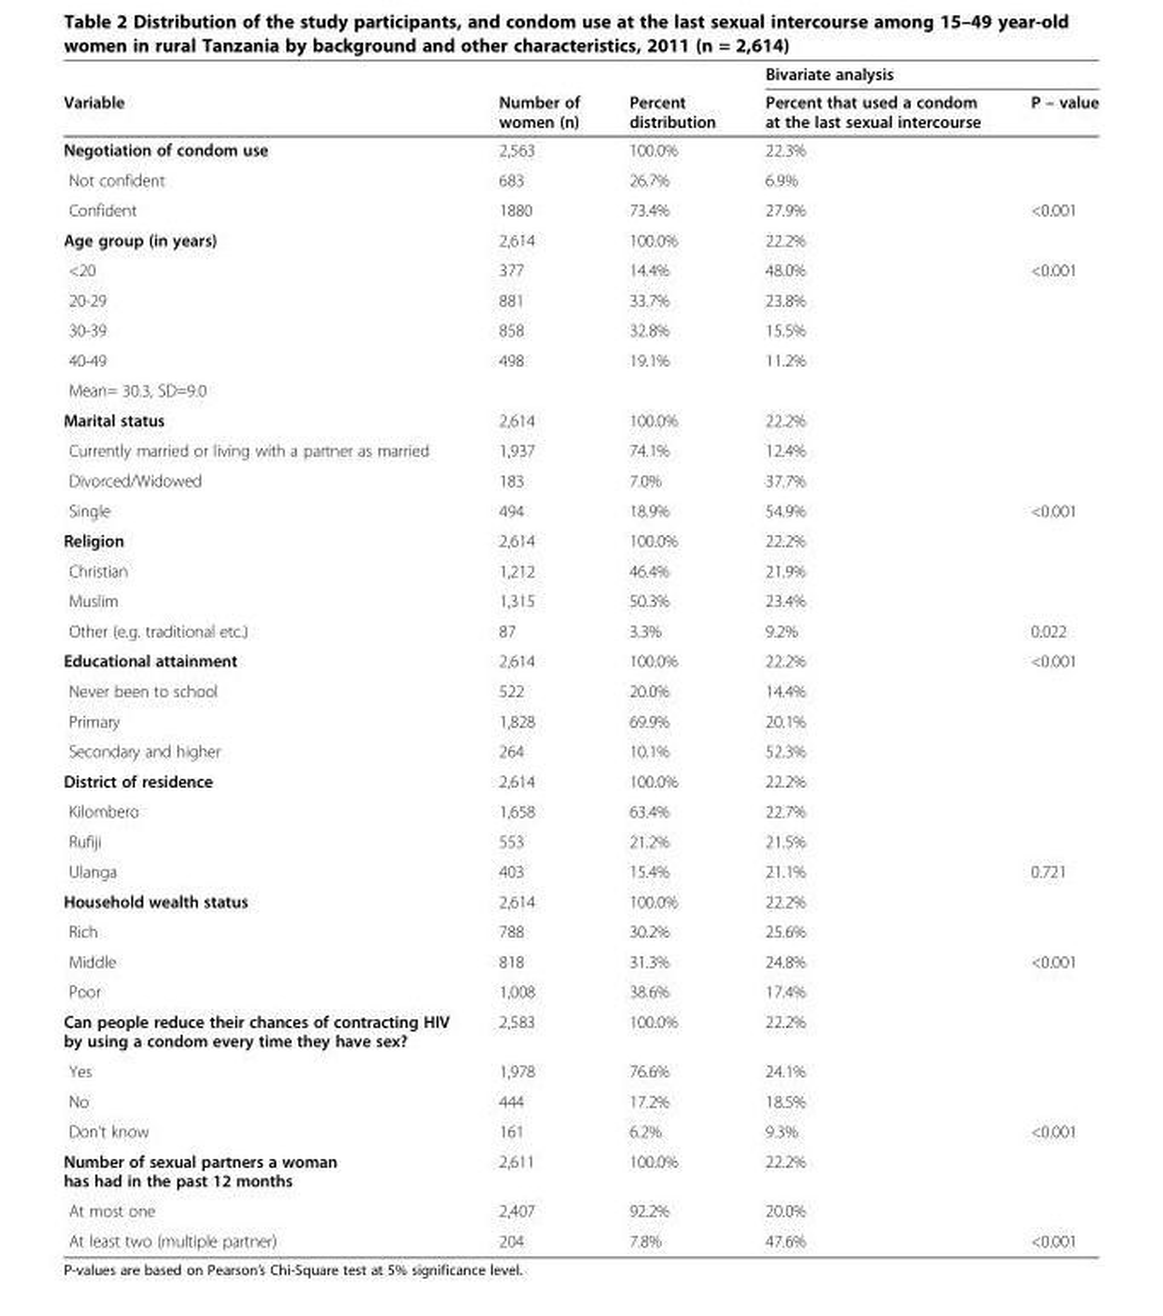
<table><thead><tr><td rowspan="2">Variable</td><td rowspan="2">Number of women (n)</td><td rowspan="2">Percent distribution</td><td colspan="2">Bivariate analysis</td></tr><tr><td>Percent that used a condom at the last sexual intercourse</td><td>P – value</td></tr></thead><tbody><tr><td>Negotiation of condom use</td><td>2,563</td><td>100.0%</td><td>22.3%</td><td></td></tr><tr><td>Not confident</td><td>683</td><td>26.7%</td><td>6.9%</td><td></td></tr><tr><td>Confident</td><td>1880</td><td>73.4%</td><td>27.9%</td><td>&lt;0.001</td></tr><tr><td>Age group (in years)</td><td>2,614</td><td>100.0%</td><td>22.2%</td><td></td></tr><tr><td>&lt;20</td><td>377</td><td>14.4%</td><td>48.0%</td><td>&lt;0.001</td></tr><tr><td>20-29</td><td>881</td><td>33.7%</td><td>23.8%</td><td></td></tr><tr><td>30-39</td><td>858</td><td>32.8%</td><td>15.5%</td><td></td></tr><tr><td>40-49</td><td>498</td><td>19.1%</td><td>11.2%</td><td></td></tr><tr><td colspan="5">Mean= 30.3, SD=9.0</td></tr><tr><td>Marital status</td><td>2,614</td><td>100.0%</td><td>22.2%</td><td></td></tr><tr><td>Currently married or living with a partner as married</td><td>1,937</td><td>74.1%</td><td>12.4%</td><td></td></tr><tr><td>Divorced/Widowed</td><td>183</td><td>7.0%</td><td>37.7%</td><td></td></tr><tr><td>Single</td><td>494</td><td>18.9%</td><td>54.9%</td><td>&lt;0.001</td></tr><tr><td>Religion</td><td>2,614</td><td>100.0%</td><td>22.2%</td><td></td></tr><tr><td>Christian</td><td>1,212</td><td>46.4%</td><td>21.9%</td><td></td></tr><tr><td>Muslim</td><td>1,315</td><td>50.3%</td><td>23.4%</td><td></td></tr><tr><td>Other (e.g. traditional etc.)</td><td>87</td><td>3.3%</td><td>9.2%</td><td>0.022</td></tr><tr><td>Educational attainment</td><td>2,614</td><td>100.0%</td><td>22.2%</td><td>&lt;0.001</td></tr><tr><td>Never been to school</td><td>522</td><td>20.0%</td><td>14.4%</td><td></td></tr><tr><td>Primary</td><td>1,828</td><td>69.9%</td><td>20.1%</td><td></td></tr><tr><td>Secondary and higher</td><td>264</td><td>10.1%</td><td>52.3%</td><td></td></tr><tr><td>District of residence</td><td>2,614</td><td>100.0%</td><td>22.2%</td><td></td></tr><tr><td>Kilombero</td><td>1,658</td><td>63.4%</td><td>22.7%</td><td></td></tr><tr><td>Rufiji</td><td>553</td><td>21.2%</td><td>21.5%</td><td></td></tr><tr><td>Ulanga</td><td>403</td><td>15.4%</td><td>21.1%</td><td>0.721</td></tr><tr><td>Household wealth status</td><td>2,614</td><td>100.0%</td><td>22.2%</td><td></td></tr><tr><td>Rich</td><td>788</td><td>30.2%</td><td>25.6%</td><td></td></tr><tr><td>Middle</td><td>818</td><td>31.3%</td><td>24.8%</td><td>&lt;0.001</td></tr><tr><td>Poor</td><td>1,008</td><td>38.6%</td><td>17.4%</td><td></td></tr><tr><td>Can people reduce their chances of contracting HIV by using a condom every time they have sex?</td><td>2,583</td><td>100.0%</td><td>22.2%</td><td></td></tr><tr><td>Yes</td><td>1,978</td><td>76.6%</td><td>24.1%</td><td></td></tr><tr><td>No</td><td>444</td><td>17.2%</td><td>18.5%</td><td></td></tr><tr><td>Don’t know</td><td>161</td><td>6.2%</td><td>9.3%</td><td>&lt;0.001</td></tr><tr><td>Number of sexual partners a woman has had in the past 12 months</td><td>2,611</td><td>100.0%</td><td>22.2%</td><td></td></tr><tr><td>At most one</td><td>2,407</td><td>92.2%</td><td>20.0%</td><td></td></tr><tr><td>At least two (multiple partner)</td><td>204</td><td>7.8%</td><td>47.6%</td><td>&lt;0.001</td></tr></tbody></table>